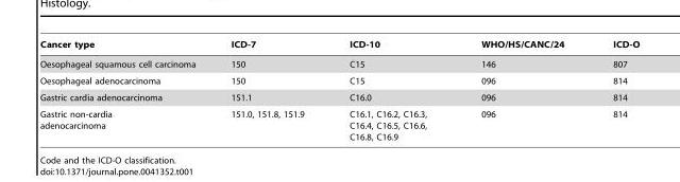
<table><thead><tr><td>Cancer type</td><td>ICD-7</td><td>ICD-10</td><td>WHO/HS/CANC/24</td><td>ICD-O</td></tr></thead><tbody><tr><td>Oesophageal squamous cell carcinoma</td><td>150</td><td>C15</td><td>146</td><td>807</td></tr><tr><td>Oesophageal adenocarcinoma</td><td>150</td><td>C15</td><td>096</td><td>814</td></tr><tr><td>Gastric cardia adenocarcinoma</td><td>151.1</td><td>C16.0</td><td>096</td><td>814</td></tr><tr><td>Gastric non-cardia adenocarcinoma</td><td>151.0, 151.8, 151.9</td><td>C16.1, C16.2, C16.3, C16.4, C16.5, C16.6, C16.8, C16.9</td><td>096</td><td>814</td></tr></tbody></table>